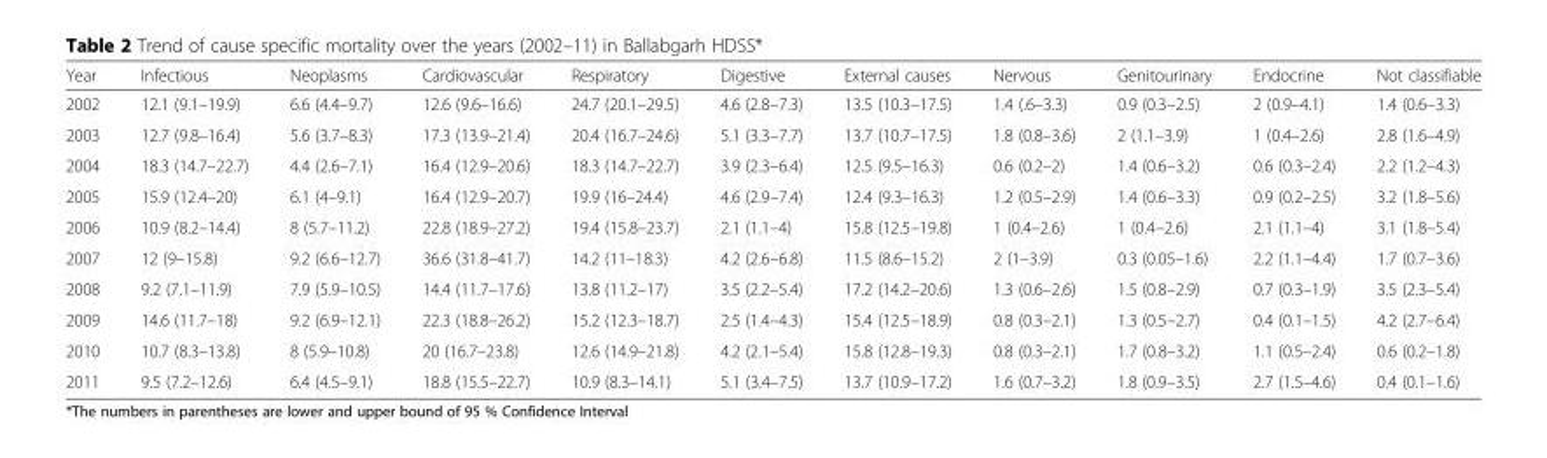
<table><thead><tr><td>Year</td><td>Infectious</td><td>Neoplasms</td><td>Cardiovascular</td><td>Respiratory</td><td>Digestive</td><td>External causes</td><td>Nervous</td><td>Genitourinary</td><td>Endocrine</td><td>Not classifiable</td></tr></thead><tbody><tr><td>2002</td><td>12.1 (9.1–19.9)</td><td>6.6 (4.4–9.7)</td><td>12.6 (9.6–16.6)</td><td>24.7 (20.1–29.5)</td><td>4.6 (2.8–7.3)</td><td>13.5 (10.3–17.5)</td><td>1.4 (.6–3.3)</td><td>0.9 (0.3–2.5)</td><td>2 (0.9–4.1)</td><td>1.4 (0.6–3.3)</td></tr><tr><td>2003</td><td>12.7 (9.8–16.4)</td><td>5.6 (3.7–8.3)</td><td>17.3 (13.9–21.4)</td><td>20.4 (16.7–24.6)</td><td>5.1 (3.3–7.7)</td><td>13.7 (10.7–17.5)</td><td>1.8 (0.8–3.6)</td><td>2 (1.1–3.9)</td><td>1 (0.4–2.6)</td><td>2.8 (1.6–4.9)</td></tr><tr><td>2004</td><td>18.3 (14.7–22.7)</td><td>4.4 (2.6–7.1)</td><td>16.4 (12.9–20.6)</td><td>18.3 (14.7–22.7)</td><td>3.9 (2.3–6.4)</td><td>12.5 (9.5–16.3)</td><td>0.6 (0.2–2)</td><td>1.4 (0.6–3.2)</td><td>0.6 (0.3–2.4)</td><td>2.2 (1.2–4.3)</td></tr><tr><td>2005</td><td>15.9 (12.4–20)</td><td>6.1 (4–9.1)</td><td>16.4 (12.9–20.7)</td><td>19.9 (16–24.4)</td><td>4.6 (2.9–7.4)</td><td>12.4 (9.3–16.3)</td><td>1.2 (0.5–2.9)</td><td>1.4 (0.6–3.3)</td><td>0.9 (0.2–2.5)</td><td>3.2 (1.8–5.6)</td></tr><tr><td>2006</td><td>10.9 (8.2–14.4)</td><td>8 (5.7–11.2)</td><td>22.8 (18.9–27.2)</td><td>19.4 (15.8–23.7)</td><td>2.1 (1.1–4)</td><td>15.8 (12.5–19.8)</td><td>1 (0.4–2.6)</td><td>1 (0.4–2.6)</td><td>2.1 (1.1–4)</td><td>3.1 (1.8–5.4)</td></tr><tr><td>2007</td><td>12 (9–15.8)</td><td>9.2 (6.6–12.7)</td><td>36.6 (31.8–41.7)</td><td>14.2 (11–18.3)</td><td>4.2 (2.6–6.8)</td><td>11.5 (8.6–15.2)</td><td>2 (1–3.9)</td><td>0.3 (0.05–1.6)</td><td>2.2 (1.1–4.4)</td><td>1.7 (0.7–3.6)</td></tr><tr><td>2008</td><td>9.2 (7.1–11.9)</td><td>7.9 (5.9–10.5)</td><td>14.4 (11.7–17.6)</td><td>13.8 (11.2–17)</td><td>3.5 (2.2–5.4)</td><td>17.2 (14.2–20.6)</td><td>1.3 (0.6–2.6)</td><td>1.5 (0.8–2.9)</td><td>0.7 (0.3–1.9)</td><td>3.5 (2.3–5.4)</td></tr><tr><td>2009</td><td>14.6 (11.7–18)</td><td>9.2 (6.9–12.1)</td><td>22.3 (18.8–26.2)</td><td>15.2 (12.3–18.7)</td><td>2.5 (1.4–4.3)</td><td>15.4 (12.5–18.9)</td><td>0.8 (0.3–2.1)</td><td>1.3 (0.5–2.7)</td><td>0.4 (0.1–1.5)</td><td>4.2 (2.7–6.4)</td></tr><tr><td>2010</td><td>10.7 (8.3–13.8)</td><td>8 (5.9–10.8)</td><td>20 (16.7–23.8)</td><td>12.6 (14.9–21.8)</td><td>4.2 (2.1–5.4)</td><td>15.8 (12.8–19.3)</td><td>0.8 (0.3–2.1)</td><td>1.7 (0.8–3.2)</td><td>1.1 (0.5–2.4)</td><td>0.6 (0.2–1.8)</td></tr><tr><td>2011</td><td>9.5 (7.2–12.6)</td><td>6.4 (4.5–9.1)</td><td>18.8 (15.5–22.7)</td><td>10.9 (8.3–14.1)</td><td>5.1 (3.4–7.5)</td><td>13.7 (10.9–17.2)</td><td>1.6 (0.7–3.2)</td><td>1.8 (0.9–3.5)</td><td>2.7 (1.5–4.6)</td><td>0.4 (0.1–1.6)</td></tr></tbody></table>